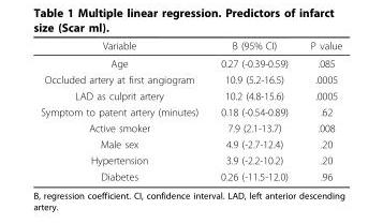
<table><thead><tr><td>Variable</td><td>B (95% CI)</td><td>P value</td></tr></thead><tbody><tr><td>Age</td><td>0.27 (-0.39-0.59)</td><td>.085</td></tr><tr><td>Occluded artery at first angiogram</td><td>10.9 (5.2-16.5)</td><td>.0005</td></tr><tr><td>LAD as culprit artery</td><td>10.2 (4.8-15.6)</td><td>.0005</td></tr><tr><td>Symptom to patent artery (minutes)</td><td>0.18 (-0.54-0.89)</td><td>.62</td></tr><tr><td>Active smoker</td><td>7.9 (2.1-13.7)</td><td>.008</td></tr><tr><td>Male sex</td><td>4.9 (-2.7-12.4)</td><td>.20</td></tr><tr><td>Hypertension</td><td>3.9 (-2.2-10.2)</td><td>.20</td></tr><tr><td>Diabetes</td><td>0.26 (-11.5-12.0)</td><td>.96</td></tr></tbody></table>